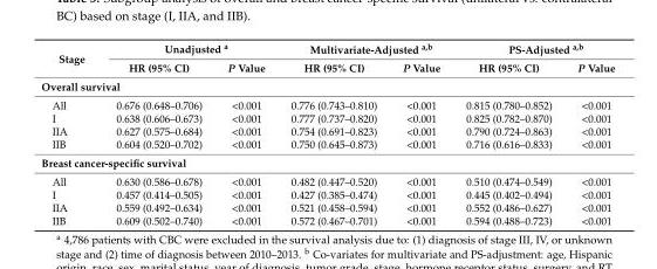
<table><thead><tr><td rowspan="2">Stage</td><td colspan="2">Unadjusted <sup>a</sup></td><td colspan="2">Multivariate-Adjusted <sup>a,b</sup></td><td colspan="2">PS-Adjusted <sup>a,b</sup></td></tr><tr><td>HR (95% CI)</td><td>P Value</td><td>HR (95% CI)</td><td>P Value</td><td>HR (95% CI)</td><td>P Value</td></tr></thead><tbody><tr><td colspan="7">Overall survival</td></tr><tr><td>All</td><td>0.676 (0.648–0.706)</td><td>&lt;0.001</td><td>0.776 (0.743–0.810)</td><td>&lt;0.001</td><td>0.815 (0.780–0.852)</td><td>&lt;0.001</td></tr><tr><td>I</td><td>0.638 (0.606–0.673)</td><td>&lt;0.001</td><td>0.777 (0.737–0.820)</td><td>&lt;0.001</td><td>0.825 (0.782–0.870)</td><td>&lt;0.001</td></tr><tr><td>IIA</td><td>0.627 (0.575–0.684)</td><td>&lt;0.001</td><td>0.754 (0.691–0.823)</td><td>&lt;0.001</td><td>0.790 (0.724–0.863)</td><td>&lt;0.001</td></tr><tr><td>IIB</td><td>0.604 (0.520–0.702)</td><td>&lt;0.001</td><td>0.750 (0.645–0.873)</td><td>&lt;0.001</td><td>0.716 (0.616–0.833)</td><td>&lt;0.001</td></tr><tr><td colspan="7">Breast cancer-specific survival</td></tr><tr><td>All</td><td>0.630 (0.586–0.678)</td><td>&lt;0.001</td><td>0.482 (0.447–0.520)</td><td>&lt;0.001</td><td>0.510 (0.474–0.549)</td><td>&lt;0.001</td></tr><tr><td>I</td><td>0.457 (0.414–0.505)</td><td>&lt;0.001</td><td>0.427 (0.385–0.474)</td><td>&lt;0.001</td><td>0.445 (0.402–0.494)</td><td>&lt;0.001</td></tr><tr><td>IIA</td><td>0.559 (0.492–0.634)</td><td>&lt;0.001</td><td>0.521 (0.458–0.594)</td><td>&lt;0.001</td><td>0.552 (0.486–0.627)</td><td>&lt;0.001</td></tr><tr><td>IIB</td><td>0.609 (0.502–0.740)</td><td>&lt;0.001</td><td>0.572 (0.467–0.701)</td><td>&lt;0.001</td><td>0.594 (0.488–0.723)</td><td>&lt;0.001</td></tr></tbody></table>